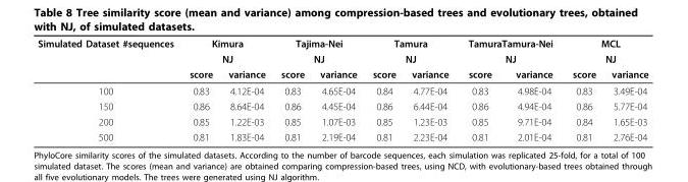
<table><thead><tr><td rowspan="3">Simulated Dataset #sequences</td><td rowspan="2" colspan="2">Kimura NJ</td><td rowspan="2" colspan="2">Tajima-Nei NJ</td><td rowspan="2" colspan="2">Tamura NJ</td><td rowspan="2" colspan="2">TamuraTamura-Nei NJ</td><td rowspan="2" colspan="2">MCL NJ</td></tr><tr></tr><tr><td>score</td><td>variance</td><td>score</td><td>variance</td><td>score</td><td>variance</td><td>score</td><td>variance</td><td>score</td><td>variance</td></tr></thead><tbody><tr><td>100</td><td>0.83</td><td>4.12E-04</td><td>0.83</td><td>4.65E-04</td><td>0.84</td><td>4.77E-04</td><td>0.83</td><td>4.98E-04</td><td>0.83</td><td>3.49E-04</td></tr><tr><td>150</td><td>0.86</td><td>8.64E-04</td><td>0.86</td><td>4.45E-04</td><td>0.86</td><td>6.44E-04</td><td>0.86</td><td>4.94E-04</td><td>0.86</td><td>5.77E-04</td></tr><tr><td>200</td><td>0.85</td><td>1.22E-03</td><td>0.85</td><td>1.07E-03</td><td>0.85</td><td>1.23E-03</td><td>0.85</td><td>9.71E-04</td><td>0.84</td><td>1.65E-03</td></tr><tr><td>500</td><td>0.81</td><td>1.83E-04</td><td>0.81</td><td>2.19E-04</td><td>0.81</td><td>2.23E-04</td><td>0.81</td><td>2.01E-04</td><td>0.81</td><td>2.76E-04</td></tr></tbody></table>